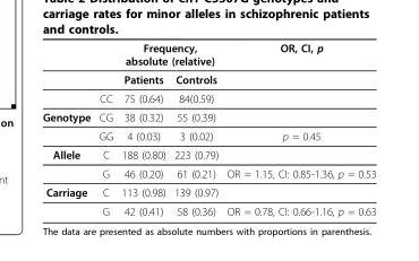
<table><thead><tr><td rowspan="2"></td><td rowspan="2"></td><td colspan="2">Frequency, absolute (relative)</td><td rowspan="2">OR, CI, p</td></tr><tr><td>Patients</td><td>Controls</td></tr></thead><tbody><tr><td></td><td>CC</td><td>75 (0.64)</td><td>84(0.59)</td><td></td></tr><tr><td rowspan="2">Genotype</td><td>CG</td><td>38 (0.32)</td><td>55 (0.39)</td><td></td></tr><tr><td>GG</td><td>4 (0.03)</td><td>3 (0.02)</td><td>p = 0.45</td></tr><tr><td rowspan="2">Allele</td><td>C</td><td>188 (0.80)</td><td>223 (0.79)</td><td></td></tr><tr><td>G</td><td>46 (0.20)</td><td>61 (0.21)</td><td>OR = 1.15, CI: 0.85-1.36, p = 0.53</td></tr><tr><td rowspan="2">Carriage</td><td>C</td><td>113 (0.98)</td><td>139 (0.97)</td><td></td></tr><tr><td>G</td><td>42 (0.41)</td><td>58 (0.36)</td><td>OR = 0.78, CI: 0.66-1.16, p = 0.63</td></tr></tbody></table>